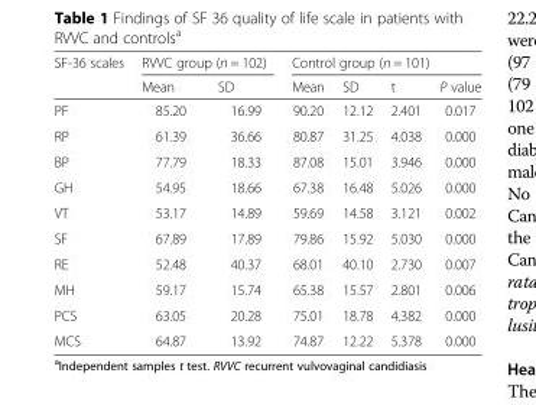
<table><thead><tr><td rowspan="2">SF-36 scales</td><td colspan="2">RVVC group (n = 102)</td><td colspan="4">Control group (n = 101)</td></tr><tr><td>Mean</td><td>SD</td><td>Mean</td><td>SD</td><td>t</td><td>P value</td></tr></thead><tbody><tr><td>PF</td><td>85.20</td><td>16.99</td><td>90.20</td><td>12.12</td><td>2.401</td><td>0.017</td></tr><tr><td>RP</td><td>61.39</td><td>36.66</td><td>80.87</td><td>31.25</td><td>4.038</td><td>0.000</td></tr><tr><td>BP</td><td>77.79</td><td>18.33</td><td>87.08</td><td>15.01</td><td>3.946</td><td>0.000</td></tr><tr><td>GH</td><td>54.95</td><td>18.66</td><td>67.38</td><td>16.48</td><td>5.026</td><td>0.000</td></tr><tr><td>VT</td><td>53.17</td><td>14.89</td><td>59.69</td><td>14.58</td><td>3.121</td><td>0.002</td></tr><tr><td>SF</td><td>67.89</td><td>17.89</td><td>79.86</td><td>15.92</td><td>5.030</td><td>0.000</td></tr><tr><td>RE</td><td>52.48</td><td>40.37</td><td>68.01</td><td>40.10</td><td>2.730</td><td>0.007</td></tr><tr><td>MH</td><td>59.17</td><td>15.74</td><td>65.38</td><td>15.57</td><td>2.801</td><td>0.006</td></tr><tr><td>PCS</td><td>63.05</td><td>20.28</td><td>75.01</td><td>18.78</td><td>4.382</td><td>0.000</td></tr><tr><td>MCS</td><td>64.87</td><td>13.92</td><td>74.87</td><td>12.22</td><td>5.378</td><td>0.000</td></tr></tbody></table>